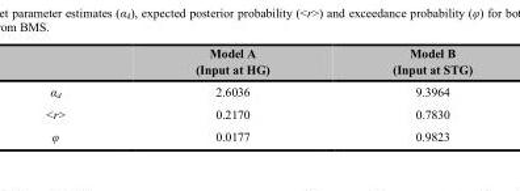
<table><thead><tr><td></td><td>Model A (Input at HG)</td><td>Model B (Input at STG)</td></tr></thead><tbody><tr><td>α<sub>d</sub></td><td>2.6036</td><td>9.3964</td></tr><tr><td>&lt;r&gt;</td><td>0.2170</td><td>0.7830</td></tr><tr><td>φ</td><td>0.0177</td><td>0.9823</td></tr></tbody></table>